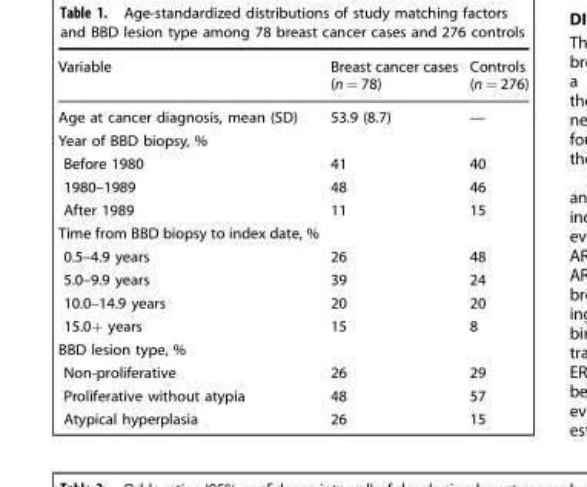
<table><thead><tr><td>Variable</td><td>Breast cancer cases (n = 78)</td><td>Controls (n = 276)</td></tr></thead><tbody><tr><td>Age at cancer diagnosis, mean (SD)</td><td>53.9 (8.7)</td><td>—</td></tr><tr><td colspan="3">Year of BBD biopsy, %</td></tr><tr><td>Before 1980</td><td>41</td><td>40</td></tr><tr><td>1980–1989</td><td>48</td><td>46</td></tr><tr><td>After 1989</td><td>11</td><td>15</td></tr><tr><td colspan="3">Time from BBD biopsy to index date, %</td></tr><tr><td>0.5–4.9 years</td><td>26</td><td>48</td></tr><tr><td>5.0–9.9 years</td><td>39</td><td>24</td></tr><tr><td>10.0–14.9 years</td><td>20</td><td>20</td></tr><tr><td>15.0+ years</td><td>15</td><td>8</td></tr><tr><td colspan="3">BBD lesion type, %</td></tr><tr><td>Non-proliferative</td><td>26</td><td>29</td></tr><tr><td>Proliferative without atypia</td><td>48</td><td>57</td></tr><tr><td>Atypical hyperplasia</td><td>26</td><td>15</td></tr></tbody></table>